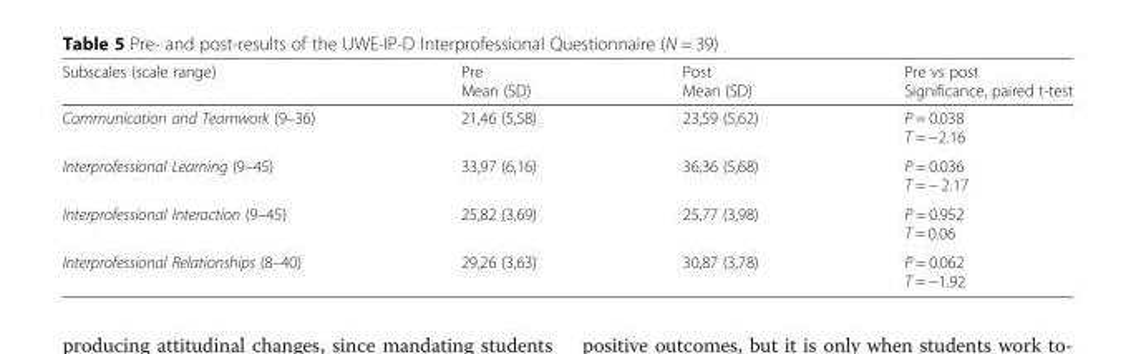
<table><thead><tr><td>Subscales (scale range)</td><td>Pre Mean (SD)</td><td>Post Mean (SD)</td><td>Pre vs post Significance, paired t-test</td></tr></thead><tbody><tr><td>Communication and Teamwork (9–36)</td><td>21,46 (5,58)</td><td>23,59 (5,62)</td><td>P = 0.038 T = −2.16</td></tr><tr><td>Interprofessional Learning (9–45)</td><td>33,97 (6,16)</td><td>36,36 (5,68)</td><td>P = 0.036 T = − 2.17</td></tr><tr><td>Interprofessional Interaction (9–45)</td><td>25,82 (3,69)</td><td>25,77 (3,98)</td><td>P = 0.952 T = 0.06</td></tr><tr><td>Interprofessional Relationships (8–40)</td><td>29,26 (3,63)</td><td>30,87 (3,78)</td><td>P = 0.062 T = −1.92</td></tr></tbody></table>